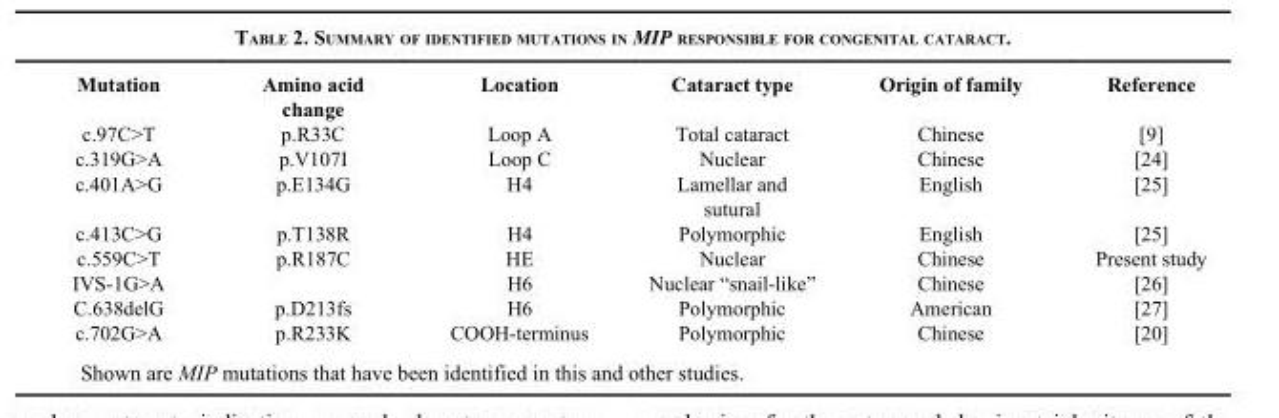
<table><thead><tr><td>Mutation</td><td>Amino acid change</td><td>Location</td><td>Cataract type</td><td>Origin of family</td><td>Reference</td></tr></thead><tbody><tr><td>c.97C&gt;T</td><td>p.R33C</td><td>Loop A</td><td>Total cataract</td><td>Chinese</td><td>[9]</td></tr><tr><td>c.319G&gt;A</td><td>p.V107I</td><td>Loop C</td><td>Nuclear</td><td>Chinese</td><td>[24]</td></tr><tr><td>c.401A&gt;G</td><td>p.E134G</td><td>H4</td><td>Lamellar and sutural</td><td>English</td><td>[25]</td></tr><tr><td>c.413C&gt;G</td><td>p.T138R</td><td>H4</td><td>Polymorphic</td><td>English</td><td>[25]</td></tr><tr><td>c.559C&gt;T</td><td>p.R187C</td><td>HE</td><td>Nuclear</td><td>Chinese</td><td>Present study</td></tr><tr><td>IVS-1G&gt;A</td><td></td><td>H6</td><td>Nuclear “snail-like”</td><td>Chinese</td><td>[26]</td></tr><tr><td>C.638delG</td><td>p.D213fs</td><td>H6</td><td>Polymorphic</td><td>American</td><td>[27]</td></tr><tr><td>c.702G&gt;A</td><td>p.R233K</td><td>COOH-terminus</td><td>Polymorphic</td><td>Chinese</td><td>[20]</td></tr></tbody></table>